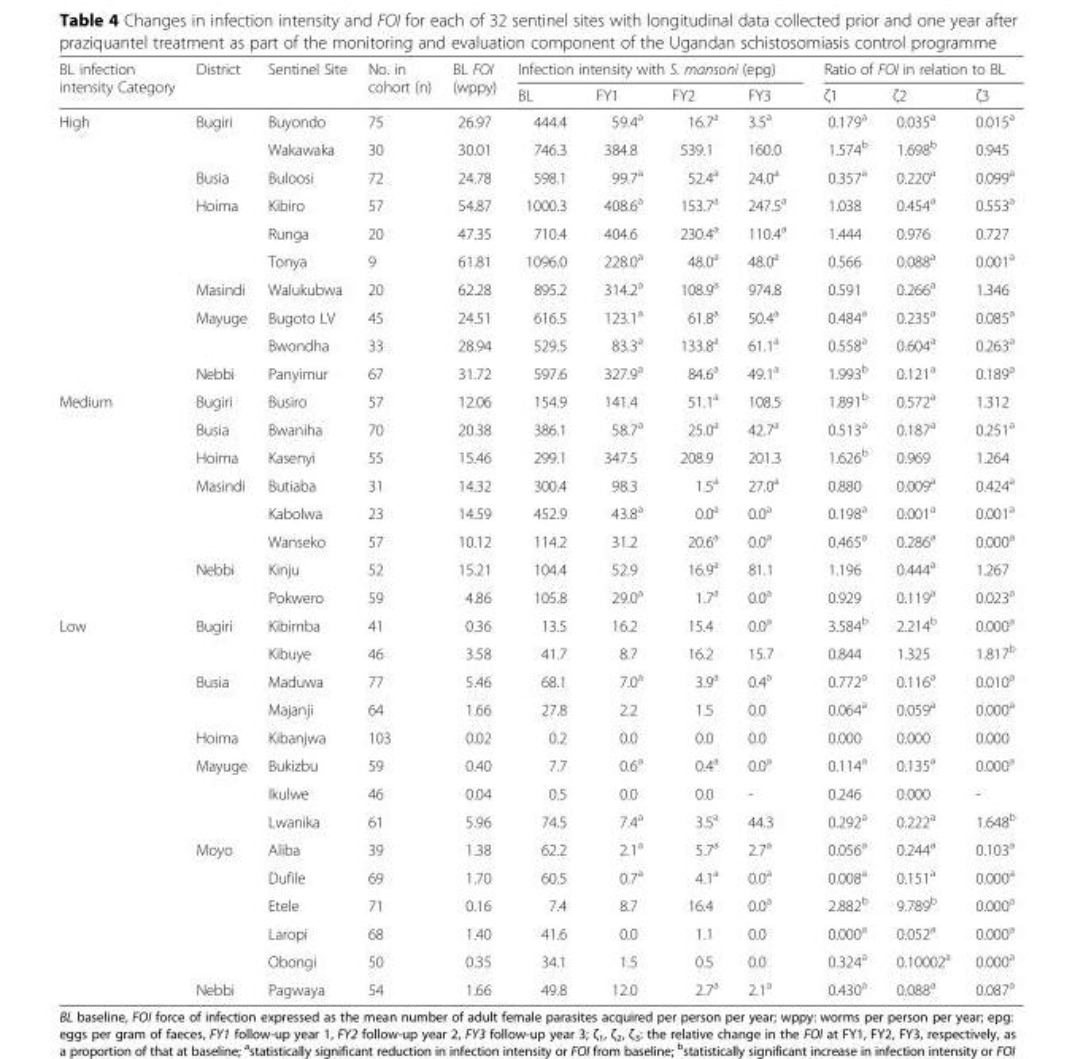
<table><thead><tr><td rowspan="2">BL infection intensity Category</td><td rowspan="2">District</td><td rowspan="2">Sentinel Site</td><td rowspan="2">No. in cohort (n)</td><td rowspan="2">BL FOI (wppy)</td><td colspan="4">Infection intensity with S. mansoni (epg)</td><td colspan="3">Ratio of FOI in relation to BL</td></tr><tr><td>BL</td><td>FY1</td><td>FY2</td><td>FY3</td><td>ζ1</td><td>ζ2</td><td>ζ3</td></tr></thead><tbody><tr><td rowspan="10">High</td><td rowspan="2">Bugiri</td><td>Buyondo</td><td>75</td><td>26.97</td><td>444.4</td><td>59.4<sup>a</sup></td><td>16.7<sup>a</sup></td><td>3.5<sup>a</sup></td><td>0.179<sup>a</sup></td><td>0.035<sup>a</sup></td><td>0.015<sup>a</sup></td></tr><tr><td>Wakawaka</td><td>30</td><td>30.01</td><td>746.3</td><td>384.8</td><td>539.1</td><td>160.0</td><td>1.574<sup>b</sup></td><td>1.698<sup>b</sup></td><td>0.945</td></tr><tr><td>Busia</td><td>Buloosi</td><td>72</td><td>24.78</td><td>598.1</td><td>99.7<sup>a</sup></td><td>52.4<sup>a</sup></td><td>24.0<sup>a</sup></td><td>0.357<sup>a</sup></td><td>0.220<sup>a</sup></td><td>0.099<sup>a</sup></td></tr><tr><td rowspan="3">Hoima</td><td>Kibiro</td><td>57</td><td>54.87</td><td>1000.3</td><td>408.6<sup>a</sup></td><td>153.7<sup>a</sup></td><td>247.5<sup>a</sup></td><td>1.038</td><td>0.454<sup>a</sup></td><td>0.553<sup>a</sup></td></tr><tr><td>Runga</td><td>20</td><td>47.35</td><td>710.4</td><td>404.6</td><td>230.4<sup>a</sup></td><td>110.4<sup>a</sup></td><td>1.444</td><td>0.976</td><td>0.727</td></tr><tr><td>Tonya</td><td>9</td><td>61.81</td><td>1096.0</td><td>228.0<sup>a</sup></td><td>48.0<sup>a</sup></td><td>48.0<sup>a</sup></td><td>0.566</td><td>0.088<sup>a</sup></td><td>0.001<sup>a</sup></td></tr><tr><td>Masindi</td><td>Walukubwa</td><td>20</td><td>62.28</td><td>895.2</td><td>314.2<sup>a</sup></td><td>108.9<sup>a</sup></td><td>974.8</td><td>0.591</td><td>0.266<sup>a</sup></td><td>1.346</td></tr><tr><td rowspan="2">Mayuge</td><td>Bugoto LV</td><td>45</td><td>24.51</td><td>616.5</td><td>123.1<sup>a</sup></td><td>61.8<sup>a</sup></td><td>50.4<sup>a</sup></td><td>0.484<sup>a</sup></td><td>0.235<sup>a</sup></td><td>0.085<sup>a</sup></td></tr><tr><td>Bwondha</td><td>33</td><td>28.94</td><td>529.5</td><td>83.3<sup>a</sup></td><td>133.8<sup>a</sup></td><td>61.1<sup>a</sup></td><td>0.558<sup>a</sup></td><td>0.604<sup>a</sup></td><td>0.263<sup>a</sup></td></tr><tr><td>Nebbi</td><td>Panyimur</td><td>67</td><td>31.72</td><td>597.6</td><td>327.9<sup>a</sup></td><td>84.6<sup>a</sup></td><td>49.1<sup>a</sup></td><td>1.993<sup>b</sup></td><td>0.121<sup>a</sup></td><td>0.189<sup>a</sup></td></tr><tr><td rowspan="8">Medium</td><td>Bugiri</td><td>Busiro</td><td>57</td><td>12.06</td><td>154.9</td><td>141.4</td><td>51.1<sup>a</sup></td><td>108.5</td><td>1.891<sup>b</sup></td><td>0.572<sup>a</sup></td><td>1.312</td></tr><tr><td>Busia</td><td>Bwaniha</td><td>70</td><td>20.38</td><td>386.1</td><td>58.7<sup>a</sup></td><td>25.0<sup>a</sup></td><td>42.7<sup>a</sup></td><td>0.513<sup>a</sup></td><td>0.187<sup>a</sup></td><td>0.251<sup>a</sup></td></tr><tr><td>Hoima</td><td>Kasenyi</td><td>55</td><td>15.46</td><td>299.1</td><td>347.5</td><td>208.9</td><td>201.3</td><td>1.626<sup>b</sup></td><td>0.969</td><td>1.264</td></tr><tr><td rowspan="3">Masindi</td><td>Butiaba</td><td>31</td><td>14.32</td><td>300.4</td><td>98.3</td><td>1.5<sup>a</sup></td><td>27.0<sup>a</sup></td><td>0.880</td><td>0.009<sup>a</sup></td><td>0.424<sup>a</sup></td></tr><tr><td>Kabolwa</td><td>23</td><td>14.59</td><td>452.9</td><td>43.8<sup>a</sup></td><td>0.0<sup>a</sup></td><td>0.0<sup>a</sup></td><td>0.198<sup>a</sup></td><td>0.001<sup>a</sup></td><td>0.001<sup>a</sup></td></tr><tr><td>Wanseko</td><td>57</td><td>10.12</td><td>114.2</td><td>31.2</td><td>20.6<sup>a</sup></td><td>0.0<sup>a</sup></td><td>0.465<sup>a</sup></td><td>0.286<sup>a</sup></td><td>0.000<sup>a</sup></td></tr><tr><td rowspan="2">Nebbi</td><td>Kinju</td><td>52</td><td>15.21</td><td>104.4</td><td>52.9</td><td>16.9<sup>a</sup></td><td>81.1</td><td>1.196</td><td>0.444<sup>a</sup></td><td>1.267</td></tr><tr><td>Pokwero</td><td>59</td><td>4.86</td><td>105.8</td><td>29.0<sup>a</sup></td><td>1.7<sup>a</sup></td><td>0.0<sup>a</sup></td><td>0.929</td><td>0.119<sup>a</sup></td><td>0.023<sup>a</sup></td></tr><tr><td rowspan="14">Low</td><td rowspan="2">Bugiri</td><td>Kibimba</td><td>41</td><td>0.36</td><td>13.5</td><td>16.2</td><td>15.4</td><td>0.0<sup>a</sup></td><td>3.584<sup>b</sup></td><td>2.214<sup>b</sup></td><td>0.000<sup>a</sup></td></tr><tr><td>Kibuye</td><td>46</td><td>3.58</td><td>41.7</td><td>8.7</td><td>16.2</td><td>15.7</td><td>0.844</td><td>1.325</td><td>1.817<sup>b</sup></td></tr><tr><td rowspan="2">Busia</td><td>Maduwa</td><td>77</td><td>5.46</td><td>68.1</td><td>7.0<sup>a</sup></td><td>3.9<sup>a</sup></td><td>0.4<sup>a</sup></td><td>0.772<sup>a</sup></td><td>0.116<sup>a</sup></td><td>0.010<sup>a</sup></td></tr><tr><td>Majanji</td><td>64</td><td>1.66</td><td>27.8</td><td>2.2</td><td>1.5</td><td>0.0</td><td>0.064<sup>a</sup></td><td>0.059<sup>a</sup></td><td>0.000<sup>a</sup></td></tr><tr><td>Hoima</td><td>Kibanjwa</td><td>103</td><td>0.02</td><td>0.2</td><td>0.0</td><td>0.0</td><td>0.0</td><td>0.000</td><td>0.000</td><td>0.000</td></tr><tr><td rowspan="3">Mayuge</td><td>Bukizbu</td><td>59</td><td>0.40</td><td>7.7</td><td>0.6<sup>a</sup></td><td>0.4<sup>a</sup></td><td>0.0<sup>a</sup></td><td>0.114<sup>a</sup></td><td>0.135<sup>a</sup></td><td>0.000<sup>a</sup></td></tr><tr><td>Ikulwe</td><td>46</td><td>0.04</td><td>0.5</td><td>0.0</td><td>0.0</td><td>-</td><td>0.246</td><td>0.000</td><td>-</td></tr><tr><td>Lwanika</td><td>61</td><td>5.96</td><td>74.5</td><td>7.4<sup>a</sup></td><td>3.5<sup>a</sup></td><td>44.3</td><td>0.292<sup>a</sup></td><td>0.222<sup>a</sup></td><td>1.648<sup>b</sup></td></tr><tr><td rowspan="5">Moyo</td><td>Aliba</td><td>39</td><td>1.38</td><td>62.2</td><td>2.1<sup>a</sup></td><td>5.7<sup>a</sup></td><td>2.7<sup>a</sup></td><td>0.056<sup>a</sup></td><td>0.244<sup>a</sup></td><td>0.103<sup>a</sup></td></tr><tr><td>Dufile</td><td>69</td><td>1.70</td><td>60.5</td><td>0.7<sup>a</sup></td><td>4.1<sup>a</sup></td><td>0.0<sup>a</sup></td><td>0.008<sup>a</sup></td><td>0.151<sup>a</sup></td><td>0.000<sup>a</sup></td></tr><tr><td>Etele</td><td>71</td><td>0.16</td><td>7.4</td><td>8.7</td><td>16.4</td><td>0.0<sup>a</sup></td><td>2.882<sup>b</sup></td><td>9.789<sup>b</sup></td><td>0.000<sup>a</sup></td></tr><tr><td>Laropi</td><td>68</td><td>1.40</td><td>41.6</td><td>0.0</td><td>1.1</td><td>0.0</td><td>0.000<sup>a</sup></td><td>0.052<sup>a</sup></td><td>0.000<sup>a</sup></td></tr><tr><td>Obongi</td><td>50</td><td>0.35</td><td>34.1</td><td>1.5</td><td>0.5</td><td>0.0</td><td>0.324<sup>a</sup></td><td>0.10002<sup>a</sup></td><td>0.000<sup>a</sup></td></tr><tr><td>Nebbi</td><td>Pagwaya</td><td>54</td><td>1.66</td><td>49.8</td><td>12.0</td><td>2.7<sup>a</sup></td><td>2.1<sup>a</sup></td><td>0.430<sup>a</sup></td><td>0.088<sup>a</sup></td><td>0.087<sup>a</sup></td></tr></tbody></table>